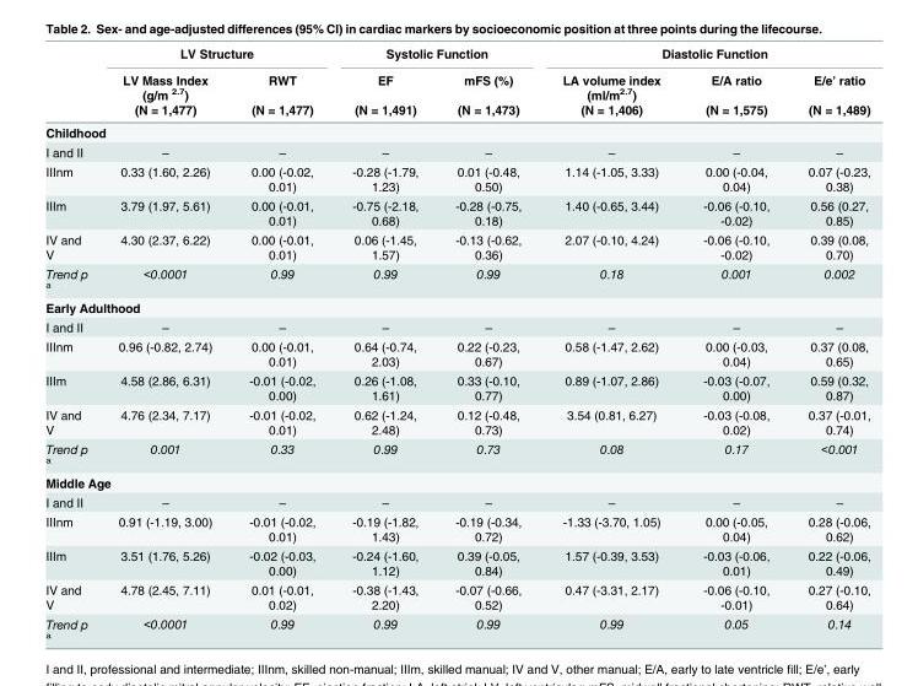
<table><thead><tr><td rowspan="3"></td><td colspan="2">LV Structure</td><td colspan="2">Systolic Function</td><td colspan="3">Diastolic Function</td></tr><tr><td rowspan="2">LV Mass Index (g/m <sup>2.7</sup>) (N = 1,477)</td><td rowspan="2">RWT (N = 1,477)</td><td rowspan="2">EF (N = 1,491)</td><td rowspan="2">mFS (%) (N = 1,473)</td><td rowspan="2">LA volume index (ml/m<sup>2.7</sup>) (N = 1,406)</td><td rowspan="2">E/A ratio (N = 1,575)</td><td rowspan="2">E/e’ ratio (N = 1,489)</td></tr><tr></tr></thead><tbody><tr><td colspan="8">Childhood</td></tr><tr><td>I and II</td><td>–</td><td>–</td><td>–</td><td>–</td><td>–</td><td>–</td><td>–</td></tr><tr><td>IIInm</td><td>0.33 (1.60, 2.26)</td><td>0.00 (-0.02, 0.01)</td><td>-0.28 (-1.79, 1.23)</td><td>0.01 (-0.48, 0.50)</td><td>1.14 (-1.05, 3.33)</td><td>0.00 (-0.04, 0.04)</td><td>0.07 (-0.23, 0.38)</td></tr><tr><td>IIIm</td><td>3.79 (1.97, 5.61)</td><td>0.00 (-0.01, 0.01)</td><td>-0.75 (-2.18, 0.68)</td><td>-0.28 (-0.75, 0.18)</td><td>1.40 (-0.65, 3.44)</td><td>-0.06 (-0.10, -0.02)</td><td>0.56 (0.27, 0.85)</td></tr><tr><td>IV and V</td><td>4.30 (2.37, 6.22)</td><td>0.00 (-0.01, 0.01)</td><td>0.06 (-1.45, 1.57)</td><td>-0.13 (-0.62, 0.36)</td><td>2.07 (-0.10, 4.24)</td><td>-0.06 (-0.10, -0.02)</td><td>0.39 (0.08, 0.70)</td></tr><tr><td>Trend p <sup>a</sup></td><td>&lt;0.0001</td><td>0.99</td><td>0.99</td><td>0.99</td><td>0.18</td><td>0.001</td><td>0.002</td></tr><tr><td colspan="8">Early Adulthood</td></tr><tr><td>I and II</td><td>–</td><td>–</td><td>–</td><td>–</td><td>–</td><td>–</td><td>–</td></tr><tr><td>IIInm</td><td>0.96 (-0.82, 2.74)</td><td>0.00 (-0.01, 0.01)</td><td>0.64 (-0.74, 2.03)</td><td>0.22 (-0.23, 0.67)</td><td>0.58 (-1.47, 2.62)</td><td>0.00 (-0.03, 0.04)</td><td>0.37 (0.08, 0.65)</td></tr><tr><td>IIIm</td><td>4.58 (2.86, 6.31)</td><td>-0.01 (-0.02, 0.00)</td><td>0.26 (-1.08, 1.61)</td><td>0.33 (-0.10, 0.77)</td><td>0.89 (-1.07, 2.86)</td><td>-0.03 (-0.07, 0.00)</td><td>0.59 (0.32, 0.87)</td></tr><tr><td>IV and V</td><td>4.76 (2.34, 7.17)</td><td>-0.01 (-0.02, 0.01)</td><td>0.62 (-1.24, 2.48)</td><td>0.12 (-0.48, 0.73)</td><td>3.54 (0.81, 6.27)</td><td>-0.03 (-0.08, 0.02)</td><td>0.37 (-0.01, 0.74)</td></tr><tr><td>Trend p <sup>a</sup></td><td>0.001</td><td>0.33</td><td>0.99</td><td>0.73</td><td>0.08</td><td>0.17</td><td>&lt;0.001</td></tr><tr><td colspan="8">Middle Age</td></tr><tr><td>I and II</td><td>–</td><td>–</td><td>–</td><td>–</td><td>–</td><td>–</td><td>–</td></tr><tr><td>IIInm</td><td>0.91 (-1.19, 3.00)</td><td>-0.01 (-0.02, 0.01)</td><td>-0.19 (-1.82, 1.43)</td><td>-0.19 (-0.34, 0.72)</td><td>-1.33 (-3.70, 1.05)</td><td>0.00 (-0.05, 0.04)</td><td>0.28 (-0.06, 0.62)</td></tr><tr><td>IIIm</td><td>3.51 (1.76, 5.26)</td><td>-0.02 (-0.03, 0.00)</td><td>-0.24 (-1.60, 1.12)</td><td>0.39 (-0.05, 0.84)</td><td>1.57 (-0.39, 3.53)</td><td>-0.03 (-0.06, 0.01)</td><td>0.22 (-0.06, 0.49)</td></tr><tr><td>IV and V</td><td>4.78 (2.45, 7.11)</td><td>0.01 (-0.01, 0.02)</td><td>-0.38 (-1.43, 2.20)</td><td>-0.07 (-0.66, 0.52)</td><td>0.47 (-3.31, 2.17)</td><td>-0.06 (-0.10, -0.01)</td><td>0.27 (-0.10, 0.64)</td></tr><tr><td>Trend p <sup>a</sup></td><td>&lt;0.0001</td><td>0.99</td><td>0.99</td><td>0.99</td><td>0.99</td><td>0.05</td><td>0.14</td></tr></tbody></table>